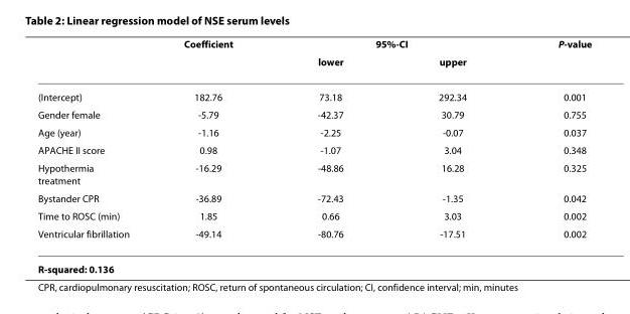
<table><thead><tr><td rowspan="2"></td><td rowspan="2">Coefficient</td><td colspan="2">95%-CI</td><td rowspan="2">P-value</td></tr><tr><td>lower</td><td>upper</td></tr></thead><tbody><tr><td>(Intercept)</td><td>182.76</td><td>73.18</td><td>292.34</td><td>0.001</td></tr><tr><td>Gender female</td><td>-5.79</td><td>-42.37</td><td>30.79</td><td>0.755</td></tr><tr><td>Age (year)</td><td>-1.16</td><td>-2.25</td><td>-0.07</td><td>0.037</td></tr><tr><td>APACHE II score</td><td>0.98</td><td>-1.07</td><td>3.04</td><td>0.348</td></tr><tr><td>Hypothermia treatment</td><td>-16.29</td><td>-48.86</td><td>16.28</td><td>0.325</td></tr><tr><td>Bystander CPR</td><td>-36.89</td><td>-72.43</td><td>-1.35</td><td>0.042</td></tr><tr><td>Time to ROSC (min)</td><td>1.85</td><td>0.66</td><td>3.03</td><td>0.002</td></tr><tr><td>Ventricular fibrillation</td><td>-49.14</td><td>-80.76</td><td>-17.51</td><td>0.002</td></tr><tr><td>R-squared: 0.136</td><td></td><td></td><td></td><td></td></tr></tbody></table>